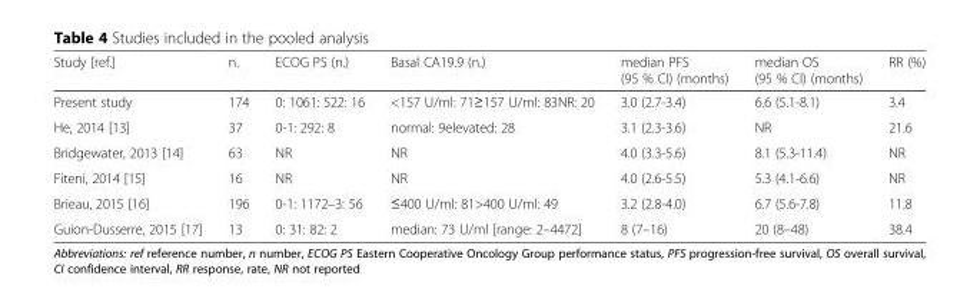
<table><thead><tr><td>Study [ref.]</td><td>n.</td><td>ECOG PS (n.)</td><td>Basal CA19.9 (n.)</td><td>median PFS (95 % CI) (months)</td><td>median OS (95 % CI) (months)</td><td>RR (%)</td></tr></thead><tbody><tr><td>Present study</td><td>174</td><td>0: 1061: 522: 16</td><td>&lt;157 U/ml: 71≥157 U/ml: 83NR: 20</td><td>3.0 (2.7-3.4)</td><td>6.6 (5.1-8.1)</td><td>3.4</td></tr><tr><td>He, 2014 [13]</td><td>37</td><td>0-1: 292: 8</td><td>normal: 9elevated: 28</td><td>3.1 (2.3-3.6)</td><td>NR</td><td>21.6</td></tr><tr><td>Bridgewater, 2013 [14]</td><td>63</td><td>NR</td><td>NR</td><td>4.0 (3.3-5.6)</td><td>8.1 (5.3-11.4)</td><td>NR</td></tr><tr><td>Fiteni, 2014 [15]</td><td>16</td><td>NR</td><td>NR</td><td>4.0 (2.6-5.5)</td><td>5.3 (4.1-6.6)</td><td>NR</td></tr><tr><td>Brieau, 2015 [16]</td><td>196</td><td>0-1: 1172–3: 56</td><td>≤400 U/ml: 81&gt;400 U/ml: 49</td><td>3.2 (2.8-4.0)</td><td>6.7 (5.6-7.8)</td><td>11.8</td></tr><tr><td>Guion-Dusserre, 2015 [17]</td><td>13</td><td>0: 31: 82: 2</td><td>median: 73 U/ml [range: 2–4472]</td><td>8 (7–16)</td><td>20 (8–48)</td><td>38.4</td></tr></tbody></table>